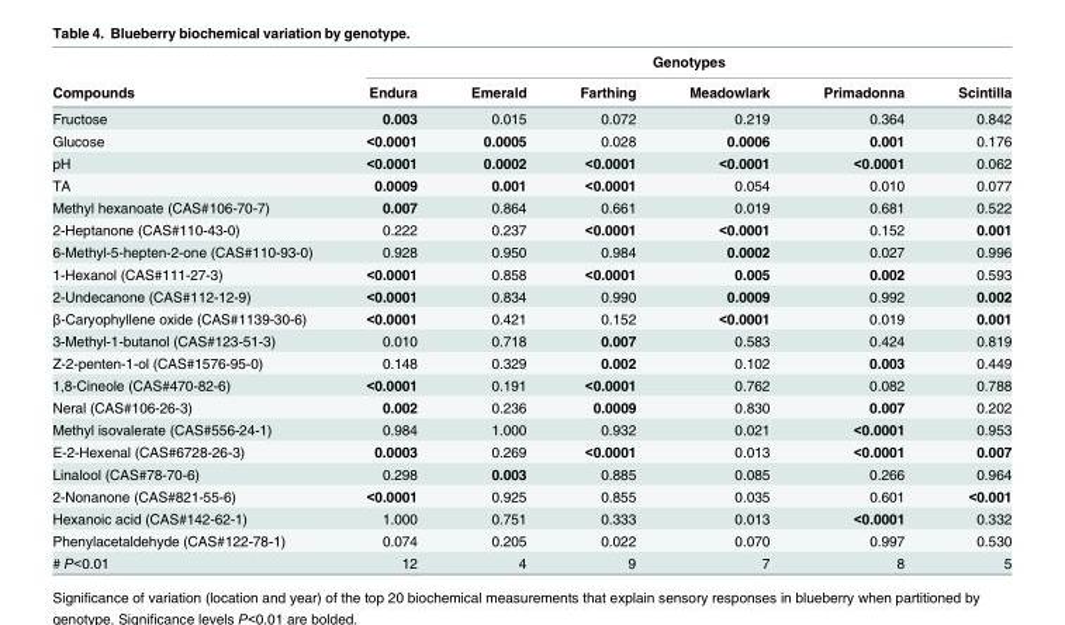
<table><thead><tr><td rowspan="2">Compounds</td><td colspan="6">Genotypes</td></tr><tr><td>Endura</td><td>Emerald</td><td>Farthing</td><td>Meadowlark</td><td>Primadonna</td><td>Scintilla</td></tr></thead><tbody><tr><td>Fructose</td><td>0.003</td><td>0.015</td><td>0.072</td><td>0.219</td><td>0.364</td><td>0.842</td></tr><tr><td>Glucose</td><td>&lt;0.0001</td><td>0.0005</td><td>0.028</td><td>0.0006</td><td>0.001</td><td>0.176</td></tr><tr><td>pH</td><td>&lt;0.0001</td><td>0.0002</td><td>&lt;0.0001</td><td>&lt;0.0001</td><td>&lt;0.0001</td><td>0.062</td></tr><tr><td>TA</td><td>0.0009</td><td>0.001</td><td>&lt;0.0001</td><td>0.054</td><td>0.010</td><td>0.077</td></tr><tr><td>Methyl hexanoate (CAS#106-70-7)</td><td>0.007</td><td>0.864</td><td>0.661</td><td>0.019</td><td>0.681</td><td>0.522</td></tr><tr><td>2-Heptanone (CAS#110-43-0)</td><td>0.222</td><td>0.237</td><td>&lt;0.0001</td><td>&lt;0.0001</td><td>0.152</td><td>0.001</td></tr><tr><td>6-Methyl-5-hepten-2-one (CAS#110-93-0)</td><td>0.928</td><td>0.950</td><td>0.984</td><td>0.0002</td><td>0.027</td><td>0.996</td></tr><tr><td>1-Hexanol (CAS#111-27-3)</td><td>&lt;0.0001</td><td>0.858</td><td>&lt;0.0001</td><td>0.005</td><td>0.002</td><td>0.593</td></tr><tr><td>2-Undecanone (CAS#112-12-9)</td><td>&lt;0.0001</td><td>0.834</td><td>0.990</td><td>0.0009</td><td>0.992</td><td>0.002</td></tr><tr><td>β-Caryophyllene oxide (CAS#1139-30-6)</td><td>&lt;0.0001</td><td>0.421</td><td>0.152</td><td>&lt;0.0001</td><td>0.019</td><td>0.001</td></tr><tr><td>3-Methyl-1-butanol (CAS#123-51-3)</td><td>0.010</td><td>0.718</td><td>0.007</td><td>0.583</td><td>0.424</td><td>0.819</td></tr><tr><td>Z-2-penten-1-ol (CAS#1576-95-0)</td><td>0.148</td><td>0.329</td><td>0.002</td><td>0.102</td><td>0.003</td><td>0.449</td></tr><tr><td>1,8-Cineole (CAS#470-82-6)</td><td>&lt;0.0001</td><td>0.191</td><td>&lt;0.0001</td><td>0.762</td><td>0.082</td><td>0.788</td></tr><tr><td>Neral (CAS#106-26-3)</td><td>0.002</td><td>0.236</td><td>0.0009</td><td>0.830</td><td>0.007</td><td>0.202</td></tr><tr><td>Methyl isovalerate (CAS#556-24-1)</td><td>0.984</td><td>1.000</td><td>0.932</td><td>0.021</td><td>&lt;0.0001</td><td>0.953</td></tr><tr><td>E-2-Hexenal (CAS#6728-26-3)</td><td>0.0003</td><td>0.269</td><td>&lt;0.0001</td><td>0.013</td><td>&lt;0.0001</td><td>0.007</td></tr><tr><td>Linalool (CAS#78-70-6)</td><td>0.298</td><td>0.003</td><td>0.885</td><td>0.085</td><td>0.266</td><td>0.964</td></tr><tr><td>2-Nonanone (CAS#821-55-6)</td><td>&lt;0.0001</td><td>0.925</td><td>0.855</td><td>0.035</td><td>0.601</td><td>&lt;0.001</td></tr><tr><td>Hexanoic acid (CAS#142-62-1)</td><td>1.000</td><td>0.751</td><td>0.333</td><td>0.013</td><td>&lt;0.0001</td><td>0.332</td></tr><tr><td>Phenylacetaldehyde (CAS#122-78-1)</td><td>0.074</td><td>0.205</td><td>0.022</td><td>0.070</td><td>0.997</td><td>0.530</td></tr><tr><td># P&lt;0.01</td><td>12</td><td>4</td><td>9</td><td>7</td><td>8</td><td>5</td></tr></tbody></table>